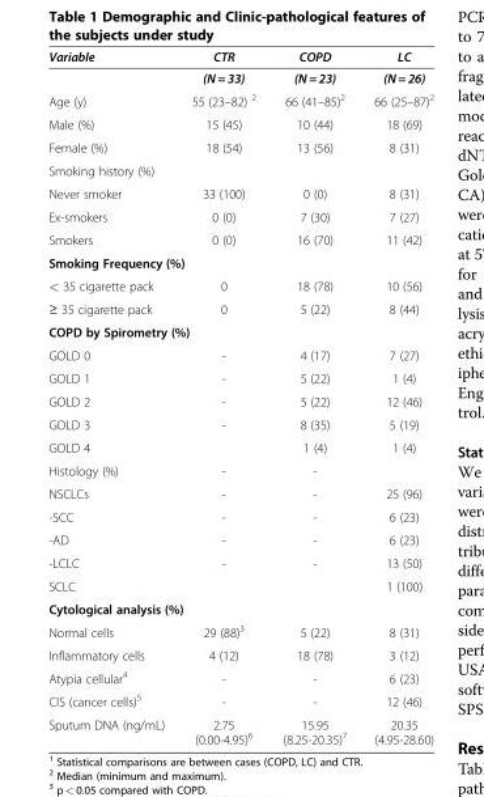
<table><thead><tr><td>Variable</td><td>CTR</td><td>COPD</td><td>LC</td></tr></thead><tbody><tr><td></td><td>(N = 33)</td><td>(N = 23)</td><td>(N = 26)</td></tr><tr><td>Age (y)</td><td>55 (23–82) <sup>2</sup></td><td>66 (41–85)<sup>2</sup></td><td>66 (25–87)<sup>2</sup></td></tr><tr><td>Male (%)</td><td>15 (45)</td><td>10 (44)</td><td>18 (69)</td></tr><tr><td>Female (%)</td><td>18 (54)</td><td>13 (56)</td><td>8 (31)</td></tr><tr><td colspan="4">Smoking history (%)</td></tr><tr><td>Never smoker</td><td>33 (100)</td><td>0 (0)</td><td>8 (31)</td></tr><tr><td>Ex-smokers</td><td>0 (0)</td><td>7 (30)</td><td>7 (27)</td></tr><tr><td>Smokers</td><td>0 (0)</td><td>16 (70)</td><td>11 (42)</td></tr><tr><td colspan="4">Smoking Frequency (%)</td></tr><tr><td>&lt; 35 cigarette pack</td><td>0</td><td>18 (78)</td><td>10 (56)</td></tr><tr><td>≥ 35 cigarette pack</td><td>0</td><td>5 (22)</td><td>8 (44)</td></tr><tr><td colspan="4">COPD by Spirometry (%)</td></tr><tr><td>GOLD 0</td><td>-</td><td>4 (17)</td><td>7 (27)</td></tr><tr><td>GOLD 1</td><td>-</td><td>5 (22)</td><td>1 (4)</td></tr><tr><td>GOLD 2</td><td>-</td><td>5 (22)</td><td>12 (46)</td></tr><tr><td>GOLD 3</td><td>-</td><td>8 (35)</td><td>5 (19)</td></tr><tr><td>GOLD 4</td><td></td><td>1 (4)</td><td>1 (4)</td></tr><tr><td>Histology (%)</td><td>-</td><td>-</td><td></td></tr><tr><td>NSCLCs</td><td>-</td><td>-</td><td>25 (96)</td></tr><tr><td>-SCC</td><td>-</td><td>-</td><td>6 (23)</td></tr><tr><td>-AD</td><td>-</td><td>-</td><td>6 (23)</td></tr><tr><td>-LCLC</td><td>-</td><td>-</td><td>13 (50)</td></tr><tr><td>SCLC</td><td></td><td></td><td>1 (100)</td></tr><tr><td colspan="4">Cytological analysis (%)</td></tr><tr><td>Normal cells</td><td>29 (88)<sup>3</sup></td><td>5 (22)</td><td>8 (31)</td></tr><tr><td>Inflammatory cells</td><td>4 (12)</td><td>18 (78)</td><td>3 (12)</td></tr><tr><td>Atypia cellular<sup>4</sup></td><td>-</td><td>-</td><td>6 (23)</td></tr><tr><td>CIS (cancer cells)<sup>5</sup></td><td>-</td><td>-</td><td>12 (46)</td></tr><tr><td>Sputum DNA (ng/mL)</td><td>2.75 (0.00-4.95)<sup>6</sup></td><td>15.95 (8.25-20.35)<sup>7</sup></td><td>20.35 (4.95-28.60)</td></tr></tbody></table>